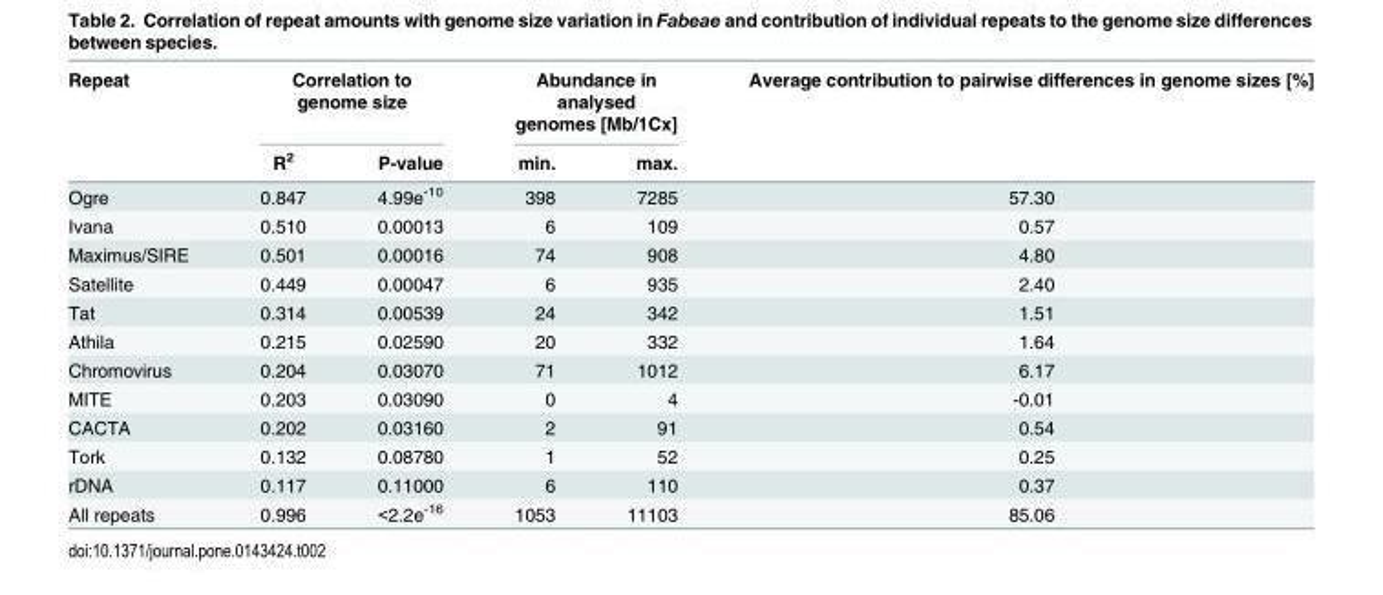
<table><thead><tr><td rowspan="2">Repeat</td><td colspan="2">Correlation to genome size</td><td colspan="2">Abundance in analysed genomes [Mb/1Cx]</td><td rowspan="2">Average contribution to pairwise differences in genome sizes [%]</td></tr><tr><td>R<sup>2</sup></td><td>P-value</td><td>min.</td><td>max.</td></tr></thead><tbody><tr><td>Ogre</td><td>0.847</td><td>4.99e<sup>-10</sup></td><td>398</td><td>7285</td><td>57.30</td></tr><tr><td>Ivana</td><td>0.510</td><td>0.00013</td><td>6</td><td>109</td><td>0.57</td></tr><tr><td>Maximus/SIRE</td><td>0.501</td><td>0.00016</td><td>74</td><td>908</td><td>4.80</td></tr><tr><td>Satellite</td><td>0.449</td><td>0.00047</td><td>6</td><td>935</td><td>2.40</td></tr><tr><td>Tat</td><td>0.314</td><td>0.00539</td><td>24</td><td>342</td><td>1.51</td></tr><tr><td>Athila</td><td>0.215</td><td>0.02590</td><td>20</td><td>332</td><td>1.64</td></tr><tr><td>Chromovirus</td><td>0.204</td><td>0.03070</td><td>71</td><td>1012</td><td>6.17</td></tr><tr><td>MITE</td><td>0.203</td><td>0.03090</td><td>0</td><td>4</td><td>-0.01</td></tr><tr><td>CACTA</td><td>0.202</td><td>0.03160</td><td>2</td><td>91</td><td>0.54</td></tr><tr><td>Tork</td><td>0.132</td><td>0.08780</td><td>1</td><td>52</td><td>0.25</td></tr><tr><td>rDNA</td><td>0.117</td><td>0.11000</td><td>6</td><td>110</td><td>0.37</td></tr><tr><td>All repeats</td><td>0.996</td><td>&lt;2.2e<sup>-16</sup></td><td>1053</td><td>11103</td><td>85.06</td></tr></tbody></table>